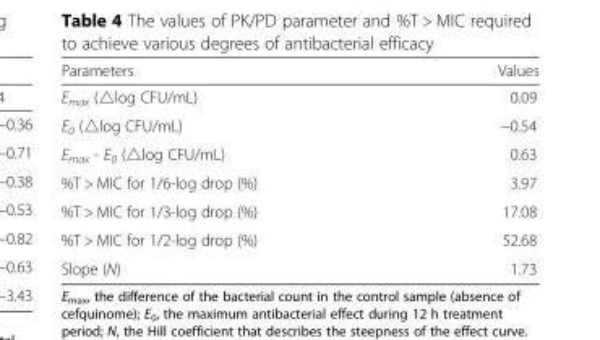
<table><thead><tr><td>Parameters</td><td>Values</td></tr></thead><tbody><tr><td>E<sub>max</sub> (△log CFU/mL)</td><td>0.09</td></tr><tr><td>E<sub>0</sub> (△log CFU/mL)</td><td>−0.54</td></tr><tr><td>E<sub>max</sub> - E<sub>0</sub> (△log CFU/mL)</td><td>0.63</td></tr><tr><td>%T &gt; MIC for 1/6-log drop (%)</td><td>3.97</td></tr><tr><td>%T &gt; MIC for 1/3-log drop (%)</td><td>17.08</td></tr><tr><td>%T &gt; MIC for 1/2-log drop (%)</td><td>52.68</td></tr><tr><td>Slope (N)</td><td>1.73</td></tr></tbody></table>